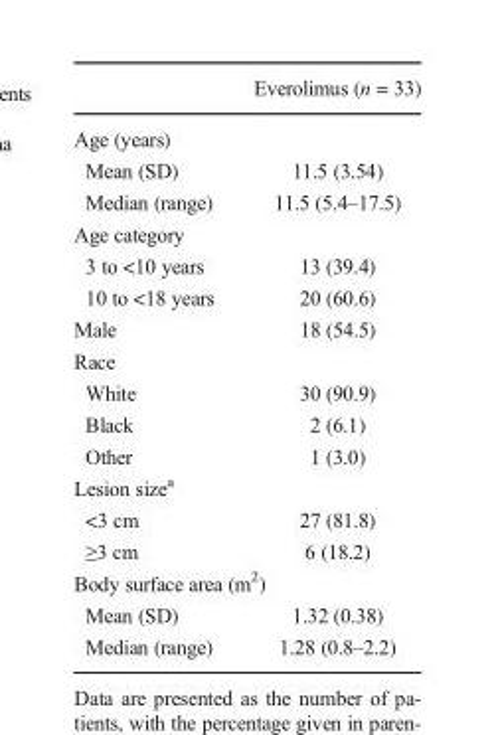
<table><thead><tr><td></td><td>Everolimus (n = 33)</td></tr></thead><tbody><tr><td colspan="2">Age (years)</td></tr><tr><td>Mean (SD)</td><td>11.5 (3.54)</td></tr><tr><td>Median (range)</td><td>11.5 (5.4–17.5)</td></tr><tr><td colspan="2">Age category</td></tr><tr><td>3 to &lt;10 years</td><td>13 (39.4)</td></tr><tr><td>10 to &lt;18 years</td><td>20 (60.6)</td></tr><tr><td>Male</td><td>18 (54.5)</td></tr><tr><td colspan="2">Race</td></tr><tr><td>White</td><td>30 (90.9)</td></tr><tr><td>Black</td><td>2 (6.1)</td></tr><tr><td>Other</td><td>1 (3.0)</td></tr><tr><td colspan="2">Lesion size<sup>a</sup></td></tr><tr><td>&lt;3 cm</td><td>27 (81.8)</td></tr><tr><td>≥3 cm</td><td>6 (18.2)</td></tr><tr><td colspan="2">Body surface area (m<sup>2</sup>)</td></tr><tr><td>Mean (SD)</td><td>1.32 (0.38)</td></tr><tr><td>Median (range)</td><td>1.28 (0.8–2.2)</td></tr></tbody></table>